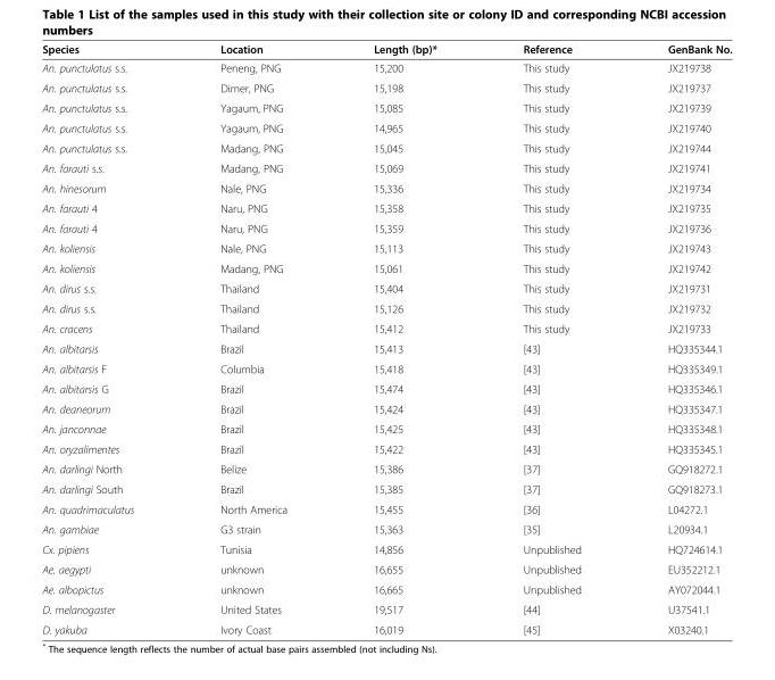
<table><thead><tr><td>Species</td><td>Location</td><td>Length (bp)*</td><td>Reference</td><td>GenBank No.</td></tr></thead><tbody><tr><td>An. punctulatus s.s.</td><td>Peneng, PNG</td><td>15,200</td><td>This study</td><td>JX219738</td></tr><tr><td>An. punctulatus s.s.</td><td>Dimer, PNG</td><td>15,198</td><td>This study</td><td>JX219737</td></tr><tr><td>An. punctulatus s.s.</td><td>Yagaum, PNG</td><td>15,085</td><td>This study</td><td>JX219739</td></tr><tr><td>An. punctulatus s.s.</td><td>Yagaum, PNG</td><td>14,965</td><td>This study</td><td>JX219740</td></tr><tr><td>An. punctulatus s.s.</td><td>Madang, PNG</td><td>15,045</td><td>This study</td><td>JX219744</td></tr><tr><td>An. farauti s.s.</td><td>Madang, PNG</td><td>15,069</td><td>This study</td><td>JX219741</td></tr><tr><td>An. hinesorum</td><td>Nale, PNG</td><td>15,336</td><td>This study</td><td>JX219734</td></tr><tr><td>An. farauti 4</td><td>Naru, PNG</td><td>15,358</td><td>This study</td><td>JX219735</td></tr><tr><td>An. farauti 4</td><td>Naru, PNG</td><td>15,359</td><td>This study</td><td>JX219736</td></tr><tr><td>An. koliensis</td><td>Nale, PNG</td><td>15,113</td><td>This study</td><td>JX219743</td></tr><tr><td>An. koliensis</td><td>Madang, PNG</td><td>15,061</td><td>This study</td><td>JX219742</td></tr><tr><td>An. dirus s.s.</td><td>Thailand</td><td>15,404</td><td>This study</td><td>JX219731</td></tr><tr><td>An. dirus s.s.</td><td>Thailand</td><td>15,126</td><td>This study</td><td>JX219732</td></tr><tr><td>An. cracens</td><td>Thailand</td><td>15,412</td><td>This study</td><td>JX219733</td></tr><tr><td>An. albitarsis</td><td>Brazil</td><td>15,413</td><td>[43]</td><td>HQ335344.1</td></tr><tr><td>An. albitarsis F</td><td>Columbia</td><td>15,418</td><td>[43]</td><td>HQ335349.1</td></tr><tr><td>An. albitarsis G</td><td>Brazil</td><td>15,474</td><td>[43]</td><td>HQ335346.1</td></tr><tr><td>An. deaneorum</td><td>Brazil</td><td>15,424</td><td>[43]</td><td>HQ335347.1</td></tr><tr><td>An. janconnae</td><td>Brazil</td><td>15,425</td><td>[43]</td><td>HQ335348.1</td></tr><tr><td>An. oryzalimentes</td><td>Brazil</td><td>15,422</td><td>[43]</td><td>HQ335345.1</td></tr><tr><td>An. darlingi North</td><td>Belize</td><td>15,386</td><td>[37]</td><td>GQ918272.1</td></tr><tr><td>An. darlingi South</td><td>Brazil</td><td>15,385</td><td>[37]</td><td>GQ918273.1</td></tr><tr><td>An. quadrimaculatus</td><td>North America</td><td>15,455</td><td>[36]</td><td>L04272.1</td></tr><tr><td>An. gambiae</td><td>G3 strain</td><td>15,363</td><td>[35]</td><td>L20934.1</td></tr><tr><td>Cx. pipiens</td><td>Tunisia</td><td>14,856</td><td>Unpublished</td><td>HQ724614.1</td></tr><tr><td>Ae. aegypti</td><td>unknown</td><td>16,655</td><td>Unpublished</td><td>EU352212.1</td></tr><tr><td>Ae. albopictus</td><td>unknown</td><td>16,665</td><td>Unpublished</td><td>AY072044.1</td></tr><tr><td>D. melanogaster</td><td>United States</td><td>19,517</td><td>[44]</td><td>U37541.1</td></tr><tr><td>D. yakuba</td><td>Ivory Coast</td><td>16,019</td><td>[45]</td><td>X03240.1</td></tr></tbody></table>